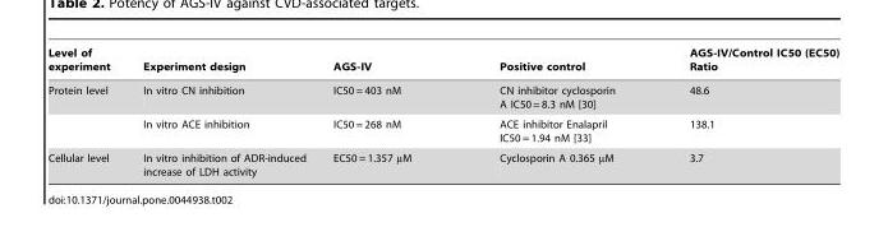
<table><thead><tr><td>Level of experiment</td><td>Experiment design</td><td>AGS-IV</td><td>Positive control</td><td>AGS-IV/Control IC50 (EC50) Ratio</td></tr></thead><tbody><tr><td rowspan="2">Protein level</td><td>In vitro CN inhibition</td><td>IC50 = 403 nM</td><td>CN inhibitor cyclosporin A IC50 = 8.3 nM [30]</td><td>48.6</td></tr><tr><td>In vitro ACE inhibition</td><td>IC50 = 268 nM</td><td>ACE inhibitor Enalapril IC50 = 1.94 nM [33]</td><td>138.1</td></tr><tr><td>Cellular level</td><td>In vitro inhibition of ADR-induced increase of LDH activity</td><td>EC50 = 1.357 µM</td><td>Cyclosporin A 0.365 µM</td><td>3.7</td></tr></tbody></table>